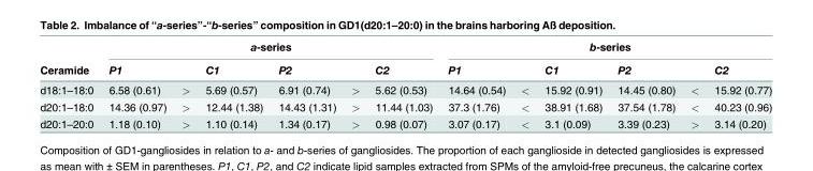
<table><thead><tr><td rowspan="2">Ceramide</td><td colspan="6">a-series</td><td colspan="6">b-series</td></tr><tr><td>P1</td><td></td><td>C1</td><td>P2</td><td></td><td>C2</td><td>P1</td><td></td><td>C1</td><td>P2</td><td></td><td>C2</td></tr></thead><tbody><tr><td>d18:1–18:0</td><td>6.58 (0.61)</td><td>&gt;</td><td>5.69 (0.57)</td><td>6.91 (0.74)</td><td>&gt;</td><td>5.62 (0.53)</td><td>14.64 (0.54)</td><td>&lt;</td><td>15.92 (0.91)</td><td>14.45 (0.80)</td><td>&lt;</td><td>15.92 (0.77)</td></tr><tr><td>d20:1–18:0</td><td>14.36 (0.97)</td><td>&gt;</td><td>12.44 (1.38)</td><td>14.43 (1.31)</td><td>&gt;</td><td>11.44 (1.03)</td><td>37.3 (1.76)</td><td>&lt;</td><td>38.91 (1.68)</td><td>37.54 (1.78)</td><td>&lt;</td><td>40.23 (0.96)</td></tr><tr><td>d20:1–20:0</td><td>1.18 (0.10)</td><td>&gt;</td><td>1.10 (0.14)</td><td>1.34 (0.17)</td><td>&gt;</td><td>0.98 (0.07)</td><td>3.07 (0.17)</td><td>&lt;</td><td>3.1 (0.09)</td><td>3.39 (0.23)</td><td>&gt;</td><td>3.14 (0.20)</td></tr></tbody></table>